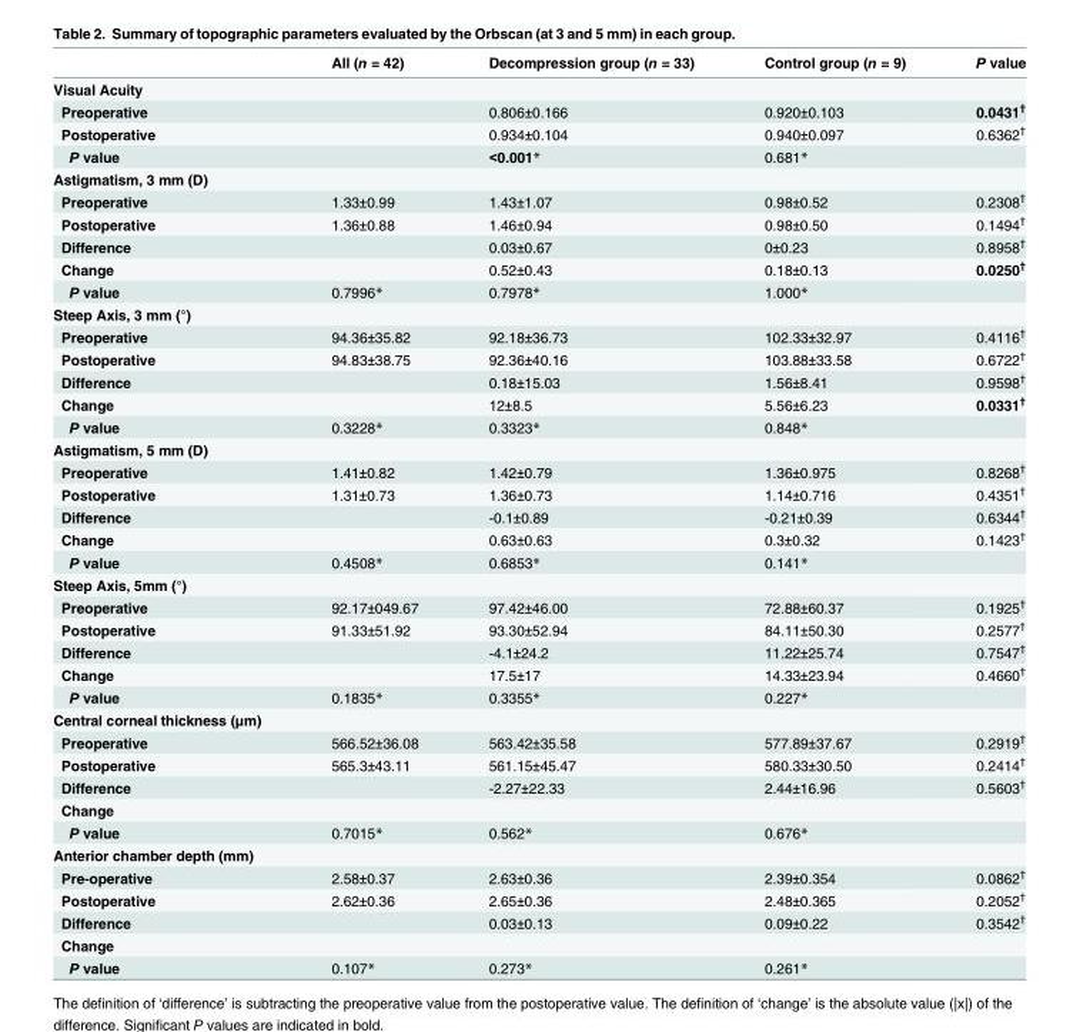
<table><thead><tr><td></td><td>All (n = 42)</td><td>Decompression group (n = 33)</td><td>Control group (n = 9)</td><td>P value</td></tr></thead><tbody><tr><td colspan="5">Visual Acuity</td></tr><tr><td>Preoperative</td><td></td><td>0.806±0.166</td><td>0.920±0.103</td><td>0.0431<sup>†</sup></td></tr><tr><td>Postoperative</td><td></td><td>0.934±0.104</td><td>0.940±0.097</td><td>0.6362<sup>†</sup></td></tr><tr><td>P value</td><td></td><td>&lt;0.001*</td><td>0.681*</td><td></td></tr><tr><td colspan="5">Astigmatism, 3 mm (D)</td></tr><tr><td>Preoperative</td><td>1.33±0.99</td><td>1.43±1.07</td><td>0.98±0.52</td><td>0.2308<sup>†</sup></td></tr><tr><td>Postoperative</td><td>1.36±0.88</td><td>1.46±0.94</td><td>0.98±0.50</td><td>0.1494<sup>†</sup></td></tr><tr><td>Difference</td><td></td><td>0.03±0.67</td><td>0±0.23</td><td>0.8958<sup>†</sup></td></tr><tr><td>Change</td><td></td><td>0.52±0.43</td><td>0.18±0.13</td><td>0.0250<sup>†</sup></td></tr><tr><td>P value</td><td>0.7996*</td><td>0.7978*</td><td>1.000*</td><td></td></tr><tr><td colspan="5">Steep Axis, 3 mm (°)</td></tr><tr><td>Preoperative</td><td>94.36±35.82</td><td>92.18±36.73</td><td>102.33±32.97</td><td>0.4116<sup>†</sup></td></tr><tr><td>Postoperative</td><td>94.83±38.75</td><td>92.36±40.16</td><td>103.88±33.58</td><td>0.6722<sup>†</sup></td></tr><tr><td>Difference</td><td></td><td>0.18±15.03</td><td>1.56±8.41</td><td>0.9598<sup>†</sup></td></tr><tr><td>Change</td><td></td><td>12±8.5</td><td>5.56±6.23</td><td>0.0331<sup>†</sup></td></tr><tr><td>P value</td><td>0.3228*</td><td>0.3323*</td><td>0.848*</td><td></td></tr><tr><td colspan="5">Astigmatism, 5 mm (D)</td></tr><tr><td>Preoperative</td><td>1.41±0.82</td><td>1.42±0.79</td><td>1.36±0.975</td><td>0.8268<sup>†</sup></td></tr><tr><td>Postoperative</td><td>1.31±0.73</td><td>1.36±0.73</td><td>1.14±0.716</td><td>0.4351<sup>†</sup></td></tr><tr><td>Difference</td><td></td><td>-0.1±0.89</td><td>-0.21±0.39</td><td>0.6344<sup>†</sup></td></tr><tr><td>Change</td><td></td><td>0.63±0.63</td><td>0.3±0.32</td><td>0.1423<sup>†</sup></td></tr><tr><td>P value</td><td>0.4508*</td><td>0.6853*</td><td>0.141*</td><td></td></tr><tr><td colspan="5">Steep Axis, 5mm (°)</td></tr><tr><td>Preoperative</td><td>92.17±049.67</td><td>97.42±46.00</td><td>72.88±60.37</td><td>0.1925<sup>†</sup></td></tr><tr><td>Postoperative</td><td>91.33±51.92</td><td>93.30±52.94</td><td>84.11±50.30</td><td>0.2577<sup>†</sup></td></tr><tr><td>Difference</td><td></td><td>-4.1±24.2</td><td>11.22±25.74</td><td>0.7547<sup>†</sup></td></tr><tr><td>Change</td><td></td><td>17.5±17</td><td>14.33±23.94</td><td>0.4660<sup>†</sup></td></tr><tr><td>P value</td><td>0.1835*</td><td>0.3355*</td><td>0.227*</td><td></td></tr><tr><td colspan="5">Central corneal thickness (μm)</td></tr><tr><td>Preoperative</td><td>566.52±36.08</td><td>563.42±35.58</td><td>577.89±37.67</td><td>0.2919<sup>†</sup></td></tr><tr><td>Postoperative</td><td>565.3±43.11</td><td>561.15±45.47</td><td>580.33±30.50</td><td>0.2414<sup>†</sup></td></tr><tr><td>Difference</td><td></td><td>-2.27±22.33</td><td>2.44±16.96</td><td>0.5603<sup>†</sup></td></tr><tr><td colspan="5">Change</td></tr><tr><td>P value</td><td>0.7015*</td><td>0.562*</td><td>0.676*</td><td></td></tr><tr><td colspan="5">Anterior chamber depth (mm)</td></tr><tr><td>Pre-operative</td><td>2.58±0.37</td><td>2.63±0.36</td><td>2.39±0.354</td><td>0.0862<sup>†</sup></td></tr><tr><td>Postoperative</td><td>2.62±0.36</td><td>2.65±0.36</td><td>2.48±0.365</td><td>0.2052<sup>†</sup></td></tr><tr><td>Difference</td><td></td><td>0.03±0.13</td><td>0.09±0.22</td><td>0.3542<sup>†</sup></td></tr><tr><td colspan="5">Change</td></tr><tr><td>P value</td><td>0.107*</td><td>0.273*</td><td>0.261*</td><td></td></tr></tbody></table>